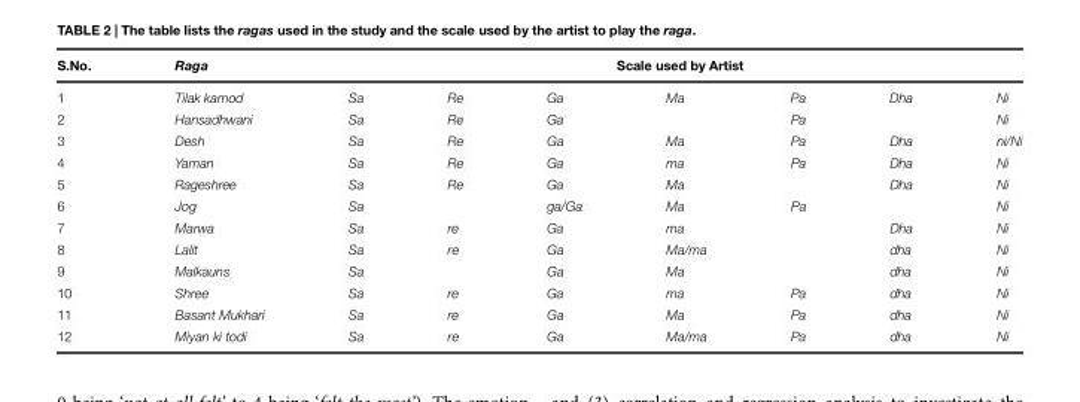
<table><thead><tr><td rowspan="2">S.No. 1</td><td rowspan="2">Raga Tilak kamod</td><td colspan="7">Scale used by Artist</td></tr><tr><td>Sa</td><td>Re</td><td>Ga</td><td>Ma</td><td>Pa</td><td>Dha</td><td>Ni</td></tr></thead><tbody><tr><td>2</td><td>Hansadhwani</td><td>Sa</td><td>Re</td><td>Ga</td><td></td><td>Pa</td><td></td><td>Ni</td></tr><tr><td>3</td><td>Desh</td><td>Sa</td><td>Re</td><td>Ga</td><td>Ma</td><td>Pa</td><td>Dha</td><td>ni/Ni</td></tr><tr><td>4</td><td>Yaman</td><td>Sa</td><td>Re</td><td>Ga</td><td>ma</td><td>Pa</td><td>Dha</td><td>Ni</td></tr><tr><td>5</td><td>Rageshree</td><td>Sa</td><td>Re</td><td>Ga</td><td>Ma</td><td></td><td>Dha</td><td>Ni</td></tr><tr><td>6</td><td>Jog</td><td>Sa</td><td></td><td>ga/Ga</td><td>Ma</td><td>Pa</td><td></td><td>Ni</td></tr><tr><td>7</td><td>Marwa</td><td>Sa</td><td>re</td><td>Ga</td><td>ma</td><td></td><td>Dha</td><td>Ni</td></tr><tr><td>8</td><td>Lalit</td><td>Sa</td><td>re</td><td>Ga</td><td>Ma/ma</td><td></td><td>dha</td><td>Ni</td></tr><tr><td>9</td><td>Malkauns</td><td>Sa</td><td></td><td>Ga</td><td>Ma</td><td></td><td>dha</td><td>Ni</td></tr><tr><td>10</td><td>Shree</td><td>Sa</td><td>re</td><td>Ga</td><td>ma</td><td>Pa</td><td>dha</td><td>Ni</td></tr><tr><td>11</td><td>Basant Mukhari</td><td>Sa</td><td>re</td><td>Ga</td><td>Ma</td><td>Pa</td><td>dha</td><td>Ni</td></tr><tr><td>12</td><td>Miyan ki todi</td><td>Sa</td><td>re</td><td>Ga</td><td>Ma/ma</td><td>Pa</td><td>dha</td><td>Ni</td></tr></tbody></table>